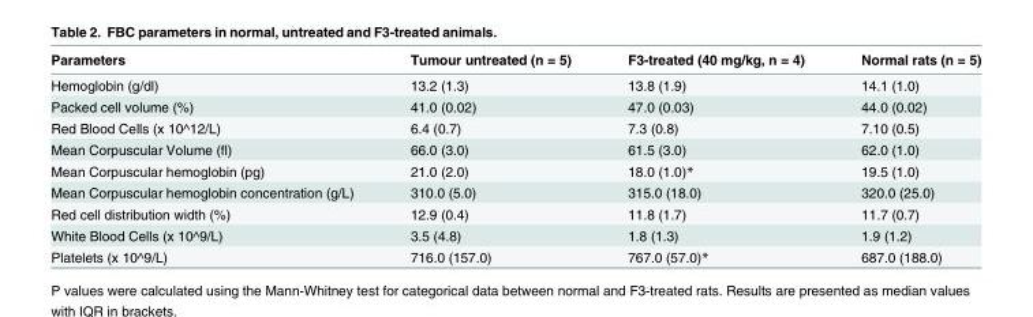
<table><thead><tr><td>Parameters</td><td>Tumour untreated (n = 5)</td><td>F3-treated (40 mg/kg, n = 4)</td><td>Normal rats (n = 5)</td></tr></thead><tbody><tr><td>Hemoglobin (g/dl)</td><td>13.2 (1.3)</td><td>13.8 (1.9)</td><td>14.1 (1.0)</td></tr><tr><td>Packed cell volume (%)</td><td>41.0 (0.02)</td><td>47.0 (0.03)</td><td>44.0 (0.02)</td></tr><tr><td>Red Blood Cells (x 10^12/L)</td><td>6.4 (0.7)</td><td>7.3 (0.8)</td><td>7.10 (0.5)</td></tr><tr><td>Mean Corpuscular Volume (fl)</td><td>66.0 (3.0)</td><td>61.5 (3.0)</td><td>62.0 (1.0)</td></tr><tr><td>Mean Corpuscular hemoglobin (pg)</td><td>21.0 (2.0)</td><td>18.0 (1.0)*</td><td>19.5 (1.0)</td></tr><tr><td>Mean Corpuscular hemoglobin concentration (g/L)</td><td>310.0 (5.0)</td><td>315.0 (18.0)</td><td>320.0 (25.0)</td></tr><tr><td>Red cell distribution width (%)</td><td>12.9 (0.4)</td><td>11.8 (1.7)</td><td>11.7 (0.7)</td></tr><tr><td>White Blood Cells (x 10^9/L)</td><td>3.5 (4.8)</td><td>1.8 (1.3)</td><td>1.9 (1.2)</td></tr><tr><td>Platelets (x 10^9/L)</td><td>716.0 (157.0)</td><td>767.0 (57.0)*</td><td>687.0 (188.0)</td></tr></tbody></table>